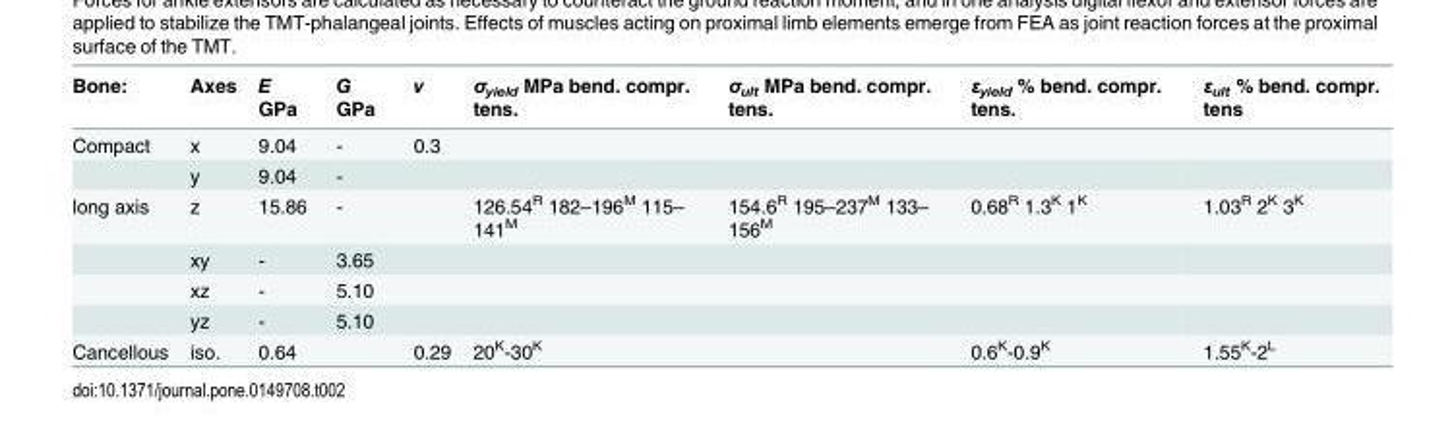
<table><thead><tr><td>Bone:</td><td>Axes</td><td>E GPa</td><td>G GPa</td><td>v</td><td>σ<sub>yield</sub> MPa bend. compr. tens.</td><td>σ<sub>ult</sub> MPa bend. compr. tens.</td><td>ε<sub>yield</sub> % bend. compr. tens.</td><td>ε<sub>ult</sub> % bend. compr. tens</td></tr></thead><tbody><tr><td rowspan="2">Compact</td><td>x</td><td>9.04</td><td>-</td><td>0.3</td><td></td><td></td><td></td><td></td></tr><tr><td>y</td><td>9.04</td><td>-</td><td></td><td></td><td></td><td></td><td></td></tr><tr><td rowspan="4">long axis</td><td>z</td><td>15.86</td><td>-</td><td></td><td>126.54<sup>R</sup> 182–196<sup>M</sup> 115– 141<sup>M</sup></td><td>154.6<sup>R</sup> 195–237<sup>M</sup> 133– 156<sup>M</sup></td><td>0.68<sup>R</sup> 1.3<sup>K</sup> 1<sup>K</sup></td><td>1.03<sup>R</sup> 2<sup>K</sup> 3<sup>K</sup></td></tr><tr><td>xy</td><td>-</td><td>3.65</td><td></td><td></td><td></td><td></td><td></td></tr><tr><td>xz</td><td>-</td><td>5.10</td><td></td><td></td><td></td><td></td><td></td></tr><tr><td>yz</td><td>-</td><td>5.10</td><td></td><td></td><td></td><td></td><td></td></tr><tr><td>Cancellous</td><td>iso.</td><td>0.64</td><td></td><td>0.29</td><td>20<sup>K</sup>-30<sup>K</sup></td><td></td><td>0.6<sup>K</sup>-0.9<sup>K</sup></td><td>1.55<sup>K</sup>-2<sup>L</sup></td></tr></tbody></table>